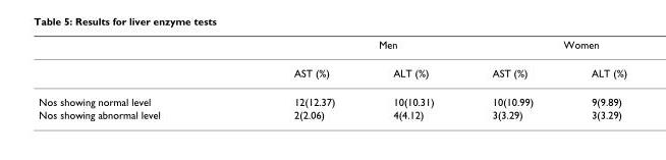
<table><thead><tr><td rowspan="2"></td><td colspan="2">Men</td><td colspan="2">Women</td></tr><tr><td>AST (%)</td><td>ALT (%)</td><td>AST (%)</td><td>ALT (%)</td></tr></thead><tbody><tr><td>Nos showing normal level</td><td>12(12.37)</td><td>10(10.31)</td><td>10(10.99)</td><td>9(9.89)</td></tr><tr><td>Nos showing abnormal level</td><td>2(2.06)</td><td>4(4.12)</td><td>3(3.29)</td><td>3(3.29)</td></tr></tbody></table>